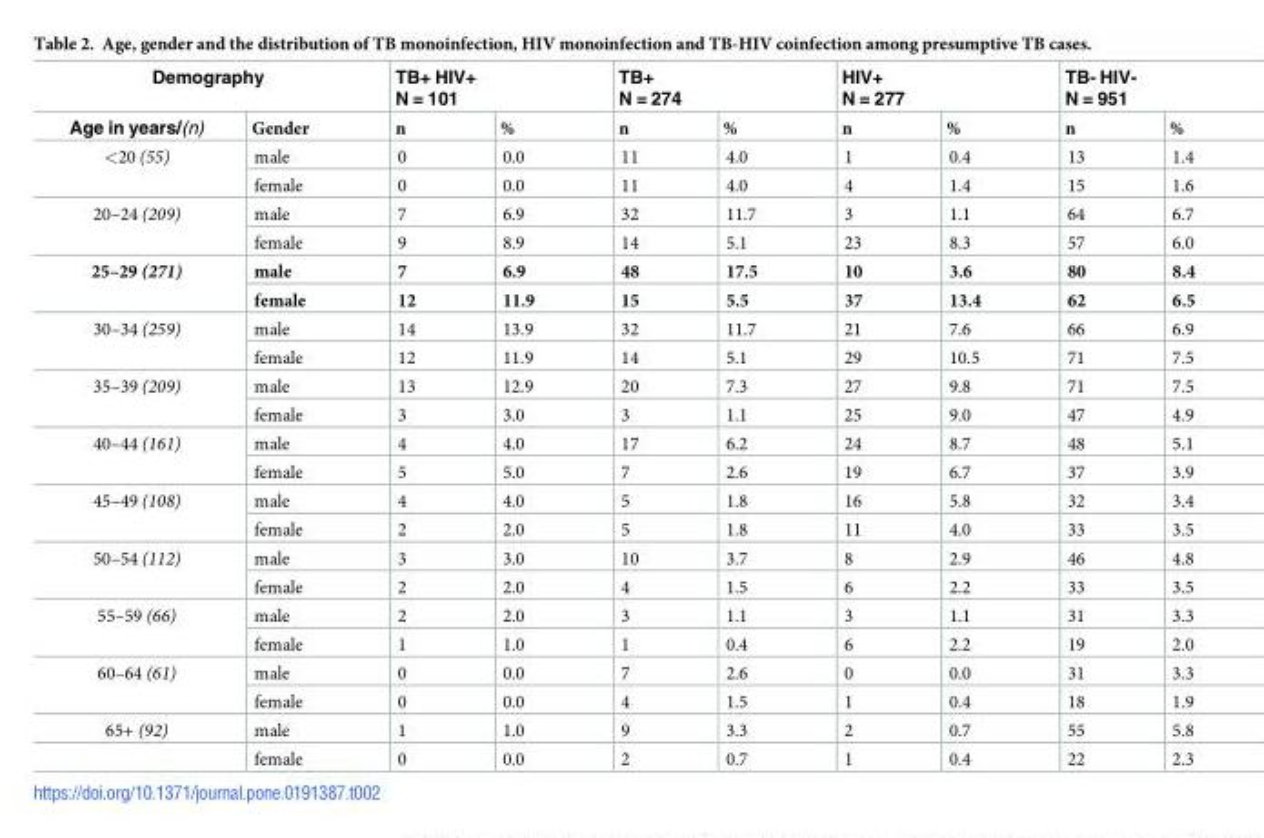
<table><thead><tr><td colspan="2">Demography</td><td colspan="2">TB+ HIV+ N = 101</td><td colspan="2">TB+ N = 274</td><td colspan="2">HIV+ N = 277</td><td colspan="2">TB- HIV- N = 951</td></tr><tr><td>Age in years/(n)</td><td>Gender</td><td>n</td><td>%</td><td>n</td><td>%</td><td>n</td><td>%</td><td>n</td><td>%</td></tr></thead><tbody><tr><td rowspan="2">&lt;20 (55)</td><td>male</td><td>0</td><td>0.0</td><td>11</td><td>4.0</td><td>1</td><td>0.4</td><td>13</td><td>1.4</td></tr><tr><td>female</td><td>0</td><td>0.0</td><td>11</td><td>4.0</td><td>4</td><td>1.4</td><td>15</td><td>1.6</td></tr><tr><td rowspan="2">20–24 (209)</td><td>male</td><td>7</td><td>6.9</td><td>32</td><td>11.7</td><td>3</td><td>1.1</td><td>64</td><td>6.7</td></tr><tr><td>female</td><td>9</td><td>8.9</td><td>14</td><td>5.1</td><td>23</td><td>8.3</td><td>57</td><td>6.0</td></tr><tr><td rowspan="2">25–29 (271)</td><td>male</td><td>7</td><td>6.9</td><td>48</td><td>17.5</td><td>10</td><td>3.6</td><td>80</td><td>8.4</td></tr><tr><td>female</td><td>12</td><td>11.9</td><td>15</td><td>5.5</td><td>37</td><td>13.4</td><td>62</td><td>6.5</td></tr><tr><td rowspan="2">30–34 (259)</td><td>male</td><td>14</td><td>13.9</td><td>32</td><td>11.7</td><td>21</td><td>7.6</td><td>66</td><td>6.9</td></tr><tr><td>female</td><td>12</td><td>11.9</td><td>14</td><td>5.1</td><td>29</td><td>10.5</td><td>71</td><td>7.5</td></tr><tr><td rowspan="2">35–39 (209)</td><td>male</td><td>13</td><td>12.9</td><td>20</td><td>7.3</td><td>27</td><td>9.8</td><td>71</td><td>7.5</td></tr><tr><td>female</td><td>3</td><td>3.0</td><td>3</td><td>1.1</td><td>25</td><td>9.0</td><td>47</td><td>4.9</td></tr><tr><td rowspan="2">40–44 (161)</td><td>male</td><td>4</td><td>4.0</td><td>17</td><td>6.2</td><td>24</td><td>8.7</td><td>48</td><td>5.1</td></tr><tr><td>female</td><td>5</td><td>5.0</td><td>7</td><td>2.6</td><td>19</td><td>6.7</td><td>37</td><td>3.9</td></tr><tr><td rowspan="2">45–49 (108)</td><td>male</td><td>4</td><td>4.0</td><td>5</td><td>1.8</td><td>16</td><td>5.8</td><td>32</td><td>3.4</td></tr><tr><td>female</td><td>2</td><td>2.0</td><td>5</td><td>1.8</td><td>11</td><td>4.0</td><td>33</td><td>3.5</td></tr><tr><td rowspan="2">50–54 (112)</td><td>male</td><td>3</td><td>3.0</td><td>10</td><td>3.7</td><td>8</td><td>2.9</td><td>46</td><td>4.8</td></tr><tr><td>female</td><td>2</td><td>2.0</td><td>4</td><td>1.5</td><td>6</td><td>2.2</td><td>33</td><td>3.5</td></tr><tr><td rowspan="2">55–59 (66)</td><td>male</td><td>2</td><td>2.0</td><td>3</td><td>1.1</td><td>3</td><td>1.1</td><td>31</td><td>3.3</td></tr><tr><td>female</td><td>1</td><td>1.0</td><td>1</td><td>0.4</td><td>6</td><td>2.2</td><td>19</td><td>2.0</td></tr><tr><td rowspan="2">60–64 (61)</td><td>male</td><td>0</td><td>0.0</td><td>7</td><td>2.6</td><td>0</td><td>0.0</td><td>31</td><td>3.3</td></tr><tr><td>female</td><td>0</td><td>0.0</td><td>4</td><td>1.5</td><td>1</td><td>0.4</td><td>18</td><td>1.9</td></tr><tr><td rowspan="2">65+ (92)</td><td>male</td><td>1</td><td>1.0</td><td>9</td><td>3.3</td><td>2</td><td>0.7</td><td>55</td><td>5.8</td></tr><tr><td>female</td><td>0</td><td>0.0</td><td>2</td><td>0.7</td><td>1</td><td>0.4</td><td>22</td><td>2.3</td></tr></tbody></table>